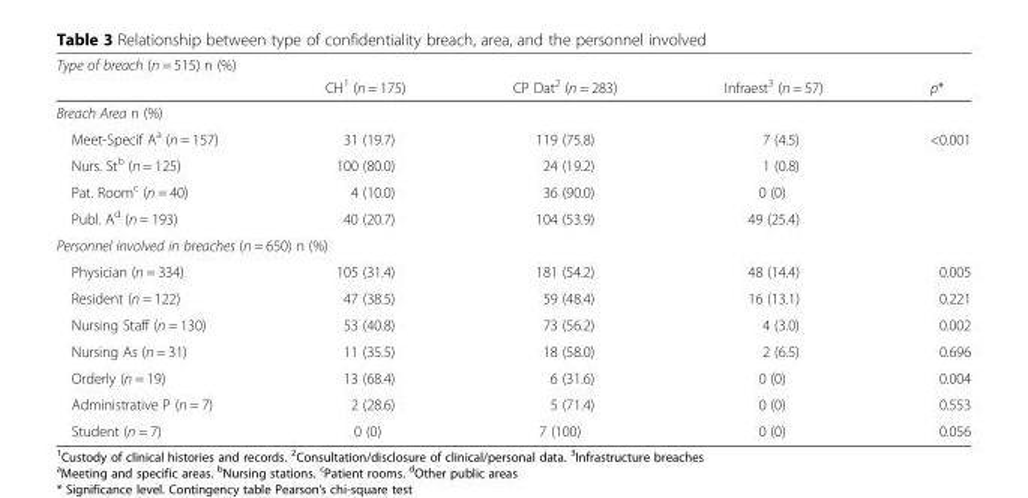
<table><thead><tr><td colspan="5">Type of breach (n = 515) n (%)</td></tr><tr><td></td><td>CH<sup>1</sup> (n = 175)</td><td>CP Dat<sup>2</sup> (n = 283)</td><td>Infraest<sup>3</sup> (n = 57)</td><td>p*</td></tr></thead><tbody><tr><td colspan="5">Breach Area n (%)</td></tr><tr><td>Meet-Specif A<sup>a</sup> (n = 157)</td><td>31 (19.7)</td><td>119 (75.8)</td><td>7 (4.5)</td><td rowspan="4">&lt;0.001</td></tr><tr><td>Nurs. St<sup>b</sup> (n = 125)</td><td>100 (80.0)</td><td>24 (19.2)</td><td>1 (0.8)</td></tr><tr><td>Pat. Room<sup>c</sup> (n = 40)</td><td>4 (10.0)</td><td>36 (90.0)</td><td>0 (0)</td></tr><tr><td>Publ. A<sup>d</sup> (n = 193)</td><td>40 (20.7)</td><td>104 (53.9)</td><td>49 (25.4)</td></tr><tr><td colspan="5">Personnel involved in breaches (n = 650) n (%)</td></tr><tr><td>Physician (n = 334)</td><td>105 (31.4)</td><td>181 (54.2)</td><td>48 (14.4)</td><td>0.005</td></tr><tr><td>Resident (n = 122)</td><td>47 (38.5)</td><td>59 (48.4)</td><td>16 (13.1)</td><td>0.221</td></tr><tr><td>Nursing Staff (n = 130)</td><td>53 (40.8)</td><td>73 (56.2)</td><td>4 (3.0)</td><td>0.002</td></tr><tr><td>Nursing As (n = 31)</td><td>11 (35.5)</td><td>18 (58.0)</td><td>2 (6.5)</td><td>0.696</td></tr><tr><td>Orderly (n = 19)</td><td>13 (68.4)</td><td>6 (31.6)</td><td>0 (0)</td><td>0.004</td></tr><tr><td>Administrative P (n = 7)</td><td>2 (28.6)</td><td>5 (71.4)</td><td>0 (0)</td><td>0.553</td></tr><tr><td>Student (n = 7)</td><td>0 (0)</td><td>7 (100)</td><td>0 (0)</td><td>0.056</td></tr></tbody></table>